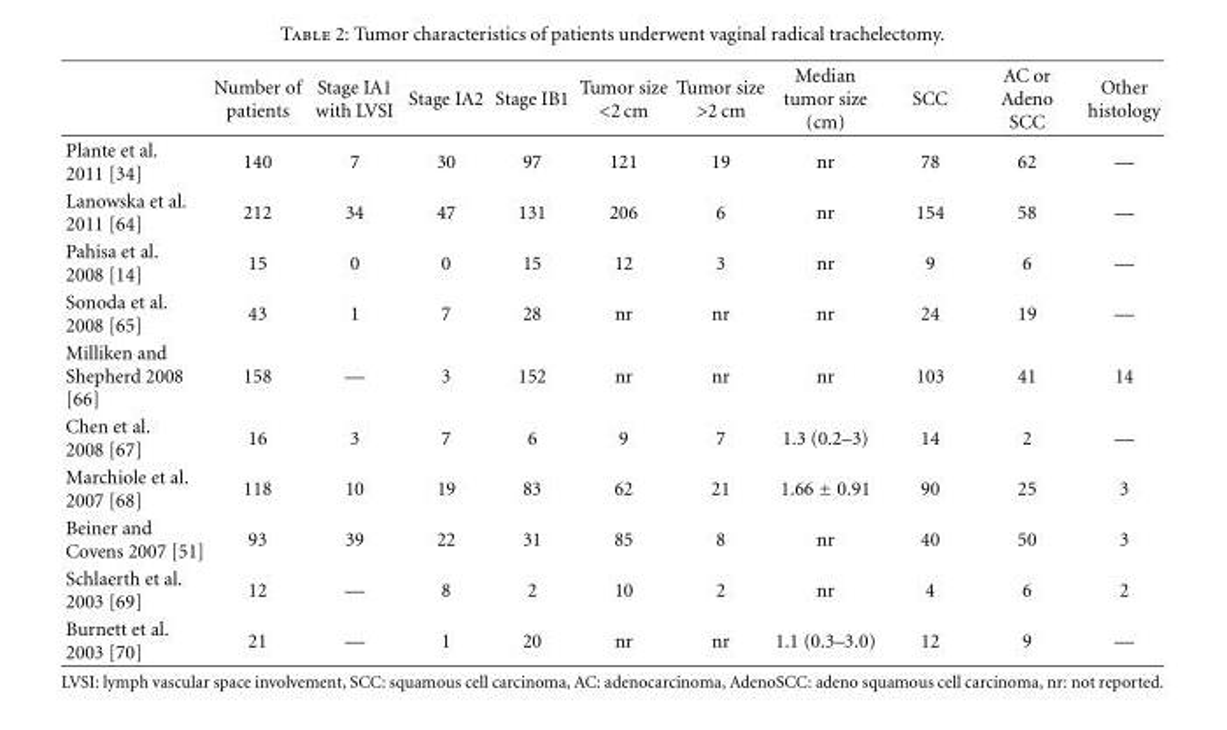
<table><thead><tr><td></td><td>Number of patients</td><td>Stage IA1 with LVSI</td><td>Stage IA2</td><td>Stage IB1</td><td>Tumor size &lt;2 cm</td><td>Tumor size &gt;2 cm</td><td>Median tumor size (cm)</td><td>SCC</td><td>AC or Adeno SCC</td><td>Other histology</td></tr></thead><tbody><tr><td>Plante et al. 2011 [34]</td><td>140</td><td>7</td><td>30</td><td>97</td><td>121</td><td>19</td><td>nr</td><td>78</td><td>62</td><td>—</td></tr><tr><td>Lanowska et al. 2011 [64]</td><td>212</td><td>34</td><td>47</td><td>131</td><td>206</td><td>6</td><td>nr</td><td>154</td><td>58</td><td>—</td></tr><tr><td>Pahisa et al. 2008 [14]</td><td>15</td><td>0</td><td>0</td><td>15</td><td>12</td><td>3</td><td>nr</td><td>9</td><td>6</td><td>—</td></tr><tr><td>Sonoda et al. 2008 [65]</td><td>43</td><td>1</td><td>7</td><td>28</td><td>nr</td><td>nr</td><td>nr</td><td>24</td><td>19</td><td>—</td></tr><tr><td>Milliken and Shepherd 2008 [66]</td><td>158</td><td>—</td><td>3</td><td>152</td><td>nr</td><td>nr</td><td>nr</td><td>103</td><td>41</td><td>14</td></tr><tr><td>Chen et al. 2008 [67]</td><td>16</td><td>3</td><td>7</td><td>6</td><td>9</td><td>7</td><td>1.3 (0.2–3)</td><td>14</td><td>2</td><td>—</td></tr><tr><td>Marchiole et al. 2007 [68]</td><td>118</td><td>10</td><td>19</td><td>83</td><td>62</td><td>21</td><td>1.66 ± 0.91</td><td>90</td><td>25</td><td>3</td></tr><tr><td>Beiner and Covens 2007 [51]</td><td>93</td><td>39</td><td>22</td><td>31</td><td>85</td><td>8</td><td>nr</td><td>40</td><td>50</td><td>3</td></tr><tr><td>Schlaerth et al. 2003 [69]</td><td>12</td><td>—</td><td>8</td><td>2</td><td>10</td><td>2</td><td>nr</td><td>4</td><td>6</td><td>2</td></tr><tr><td>Burnett et al. 2003 [70]</td><td>21</td><td>—</td><td>1</td><td>20</td><td>nr</td><td>nr</td><td>1.1 (0.3–3.0)</td><td>12</td><td>9</td><td>—</td></tr></tbody></table>